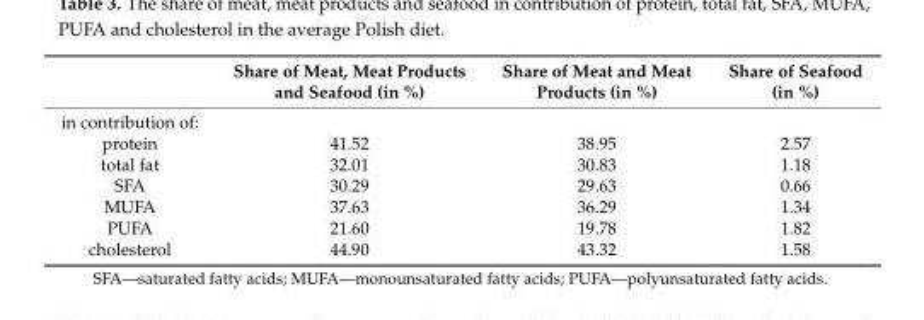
<table><thead><tr><td></td><td>Share of Meat, Meat Products and Seafood (in %)</td><td>Share of Meat and Meat Products (in %)</td><td>Share of Seafood (in %)</td></tr></thead><tbody><tr><td colspan="4">in contribution of:</td></tr><tr><td>protein</td><td>41.52</td><td>38.95</td><td>2.57</td></tr><tr><td>total fat</td><td>32.01</td><td>30.83</td><td>1.18</td></tr><tr><td>SFA</td><td>30.29</td><td>29.63</td><td>0.66</td></tr><tr><td>MUFA</td><td>37.63</td><td>36.29</td><td>1.34</td></tr><tr><td>PUFA</td><td>21.60</td><td>19.78</td><td>1.82</td></tr><tr><td>cholesterol</td><td>44.90</td><td>43.32</td><td>1.58</td></tr></tbody></table>